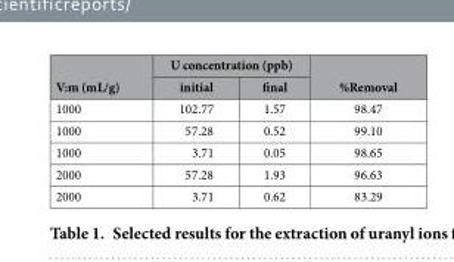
<table><thead><tr><td rowspan="2">V:m (mL/g)</td><td colspan="2">U concentration (ppb)</td><td rowspan="2">%Removal</td></tr><tr><td>initial</td><td>final</td></tr></thead><tbody><tr><td>1000</td><td>102.77</td><td>1.57</td><td>98.47</td></tr><tr><td>1000</td><td>57.28</td><td>0.52</td><td>99.10</td></tr><tr><td>1000</td><td>3.71</td><td>0.05</td><td>98.65</td></tr><tr><td>2000</td><td>57.28</td><td>1.93</td><td>96.63</td></tr><tr><td>2000</td><td>3.71</td><td>0.62</td><td>83.29</td></tr></tbody></table>